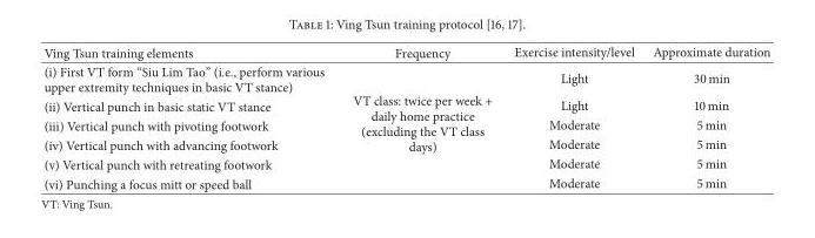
<table><thead><tr><td>Ving Tsun training elements</td><td>Frequency</td><td>Exercise intensity/level</td><td>Approximate duration</td></tr></thead><tbody><tr><td>(i) First VT form “Siu Lim Tao” (i.e., perform various upper extremity techniques in basic VT stance)</td><td rowspan="6">VT class: twice per week + daily home practice (excluding the VT class days)</td><td>Light</td><td>30 min</td></tr><tr><td>(ii) Vertical punch in basic static VT stance</td><td>Light</td><td>10 min</td></tr><tr><td>(iii) Vertical punch with pivoting footwork</td><td>Moderate</td><td>5 min</td></tr><tr><td>(iv) Vertical punch with advancing footwork</td><td>Moderate</td><td>5 min</td></tr><tr><td>(v) Vertical punch with retreating footwork</td><td>Moderate</td><td>5 min</td></tr><tr><td>(vi) Punching a focus mitt or speed ball</td><td>Moderate</td><td>5 min</td></tr></tbody></table>